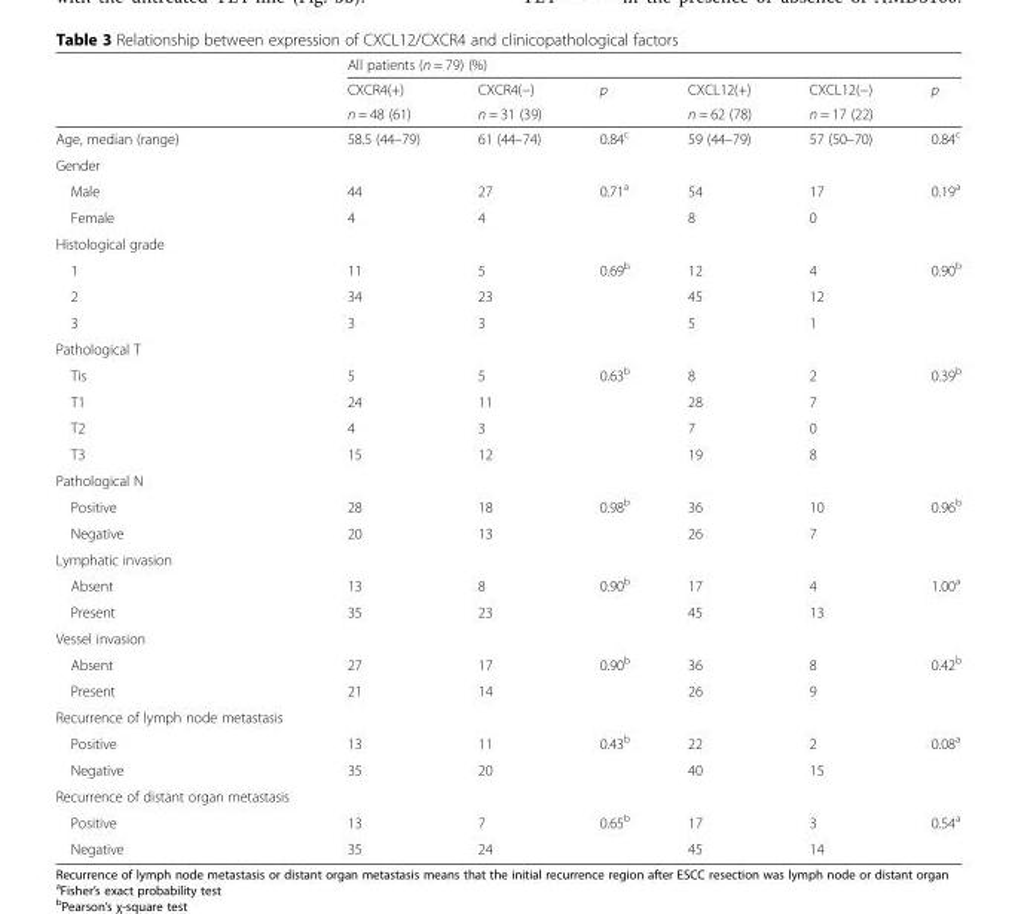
<table><thead><tr><td rowspan="3"></td><td colspan="6">All patients (n = 79) (%)</td></tr><tr><td rowspan="2">CXCR4(+) n = 48 (61)</td><td rowspan="2">CXCR4(−) n = 31 (39)</td><td rowspan="2">p</td><td rowspan="2">CXCL12(+) n = 62 (78)</td><td rowspan="2">CXCL12(−) n = 17 (22)</td><td rowspan="2">p</td></tr><tr></tr></thead><tbody><tr><td>Age, median (range)</td><td>58.5 (44–79)</td><td>61 (44–74)</td><td>0.84<sup>c</sup></td><td>59 (44–79)</td><td>57 (50–70)</td><td>0.84<sup>c</sup></td></tr><tr><td colspan="7">Gender</td></tr><tr><td>Male</td><td>44</td><td>27</td><td rowspan="2">0.71<sup>a</sup></td><td>54</td><td>17</td><td rowspan="2">0.19<sup>a</sup></td></tr><tr><td>Female</td><td>4</td><td>4</td><td>8</td><td>0</td></tr><tr><td colspan="7">Histological grade</td></tr><tr><td>1</td><td>11</td><td>5</td><td rowspan="3">0.69<sup>b</sup></td><td>12</td><td>4</td><td rowspan="3">0.90<sup>b</sup></td></tr><tr><td>2</td><td>34</td><td>23</td><td>45</td><td>12</td></tr><tr><td>3</td><td>3</td><td>3</td><td>5</td><td>1</td></tr><tr><td colspan="7">Pathological T</td></tr><tr><td>Tis</td><td>5</td><td>5</td><td rowspan="4">0.63<sup>b</sup></td><td>8</td><td>2</td><td rowspan="4">0.39<sup>b</sup></td></tr><tr><td>T1</td><td>24</td><td>11</td><td>28</td><td>7</td></tr><tr><td>T2</td><td>4</td><td>3</td><td>7</td><td>0</td></tr><tr><td>T3</td><td>15</td><td>12</td><td>19</td><td>8</td></tr><tr><td colspan="7">Pathological N</td></tr><tr><td>Positive</td><td>28</td><td>18</td><td rowspan="2">0.98<sup>b</sup></td><td>36</td><td>10</td><td rowspan="2">0.96<sup>b</sup></td></tr><tr><td>Negative</td><td>20</td><td>13</td><td>26</td><td>7</td></tr><tr><td colspan="7">Lymphatic invasion</td></tr><tr><td>Absent</td><td>13</td><td>8</td><td rowspan="2">0.90<sup>b</sup></td><td>17</td><td>4</td><td rowspan="2">1.00<sup>a</sup></td></tr><tr><td>Present</td><td>35</td><td>23</td><td>45</td><td>13</td></tr><tr><td colspan="7">Vessel invasion</td></tr><tr><td>Absent</td><td>27</td><td>17</td><td rowspan="2">0.90<sup>b</sup></td><td>36</td><td>8</td><td rowspan="2">0.42<sup>b</sup></td></tr><tr><td>Present</td><td>21</td><td>14</td><td>26</td><td>9</td></tr><tr><td colspan="7">Recurrence of lymph node metastasis</td></tr><tr><td>Positive</td><td>13</td><td>11</td><td rowspan="2">0.43<sup>b</sup></td><td>22</td><td>2</td><td rowspan="2">0.08<sup>a</sup></td></tr><tr><td>Negative</td><td>35</td><td>20</td><td>40</td><td>15</td></tr><tr><td colspan="7">Recurrence of distant organ metastasis</td></tr><tr><td>Positive</td><td>13</td><td>7</td><td rowspan="2">0.65<sup>b</sup></td><td>17</td><td>3</td><td rowspan="2">0.54<sup>a</sup></td></tr><tr><td>Negative</td><td>35</td><td>24</td><td>45</td><td>14</td></tr></tbody></table>